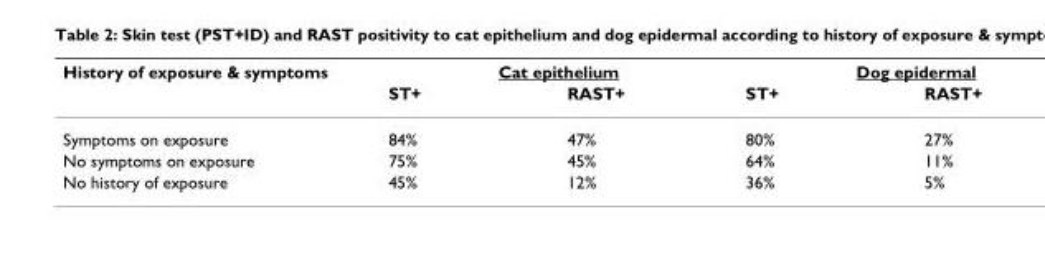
<table><thead><tr><td rowspan="2">History of exposure &amp; symptoms</td><td colspan="2">Cat epithelium</td><td colspan="2">Dog epidermal</td></tr><tr><td>ST+</td><td>RAST+</td><td>ST+</td><td>RAST+</td></tr></thead><tbody><tr><td>Symptoms on exposure</td><td>84%</td><td>47%</td><td>80%</td><td>27%</td></tr><tr><td>No symptoms on exposure</td><td>75%</td><td>45%</td><td>64%</td><td>11%</td></tr><tr><td>No history of exposure</td><td>45%</td><td>12%</td><td>36%</td><td>5%</td></tr></tbody></table>